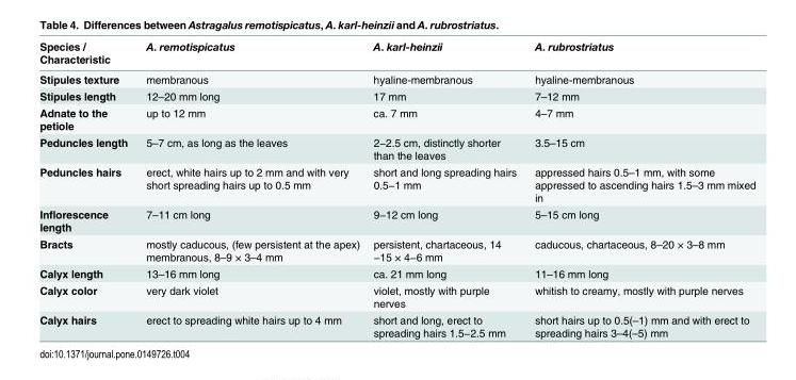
<table><thead><tr><td>Species / Characteristic</td><td>A. remotispicatus</td><td>A. karl-heinzii</td><td>A. rubrostriatus</td></tr></thead><tbody><tr><td>Stipules texture</td><td>membranous</td><td>hyaline-membranous</td><td>hyaline-membranous</td></tr><tr><td>Stipules length</td><td>12–20 mm long</td><td>17 mm</td><td>7–12 mm</td></tr><tr><td>Adnate to the petiole</td><td>up to 12 mm</td><td>ca. 7 mm</td><td>4–7 mm</td></tr><tr><td>Peduncles length</td><td>5–7 cm, as long as the leaves</td><td>2−2.5 cm, distinctly shorter than the leaves</td><td>3.5–15 cm</td></tr><tr><td>Peduncles hairs</td><td>erect, white hairs up to 2 mm and with very short spreading hairs up to 0.5 mm</td><td>short and long spreading hairs 0.5−1 mm</td><td>appressed hairs 0.5–1 mm, with some appressed to ascending hairs 1.5–3 mm mixed in</td></tr><tr><td>Inflorescence length</td><td>7–11 cm long</td><td>9−12 cm long</td><td>5–15 cm long</td></tr><tr><td>Bracts</td><td>mostly caducous, (few persistent at the apex) membranous, 8–9 × 3–4 mm</td><td>persistent, chartaceous, 14 −15 × 4−6 mm</td><td>caducous, chartaceous, 8–20 × 3–8 mm</td></tr><tr><td>Calyx length</td><td>13–16 mm long</td><td>ca. 21 mm long</td><td>11–16 mm long</td></tr><tr><td>Calyx color</td><td>very dark violet</td><td>violet, mostly with purple nerves</td><td>whitish to creamy, mostly with purple nerves</td></tr><tr><td>Calyx hairs</td><td>erect to spreading white hairs up to 4 mm</td><td>short and long, erect to spreading hairs 1.5−2.5 mm</td><td>short hairs up to 0.5(–1) mm and with erect to spreading hairs 3–4(–5) mm</td></tr></tbody></table>